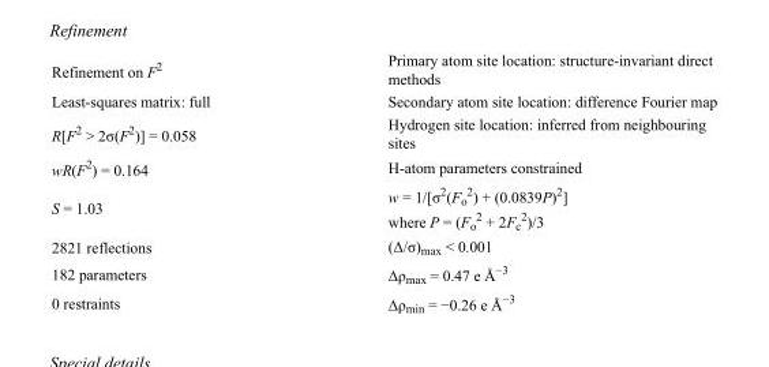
<table><tbody><tr><td>Refinement on F<sup>2</sup></td><td>Primary atom site location: structure-invariant direct methods</td></tr><tr><td>Least-squares matrix: full</td><td>Secondary atom site location: difference Fourier map</td></tr><tr><td>R[F<sup>2</sup> &gt; 2σ(F<sup>2</sup>)] = 0.058</td><td>Hydrogen site location: inferred from neighbouring sites</td></tr><tr><td>wR(F<sup>2</sup>) = 0.164</td><td>H-atom parameters constrained</td></tr><tr><td>S = 1.03</td><td>w = 1/[σ<sup>2</sup>(F<sub>o</sub> <sup>2</sup>) + (0.0839P)<sup>2</sup>] where P = (F<sub>o</sub> <sup>2</sup> + 2F<sub>c</sub> <sup>2</sup>)/3</td></tr><tr><td>2821 reflections</td><td>(Δ/σ)<sub>max</sub> &lt; 0.001</td></tr><tr><td>182 parameters</td><td>Δρ<sub>max</sub> = 0.47 e Å<sup>−3</sup></td></tr><tr><td>0 restraints</td><td>Δρ<sub>min</sub> = −0.26 e Å<sup>−3</sup></td></tr></tbody></table>